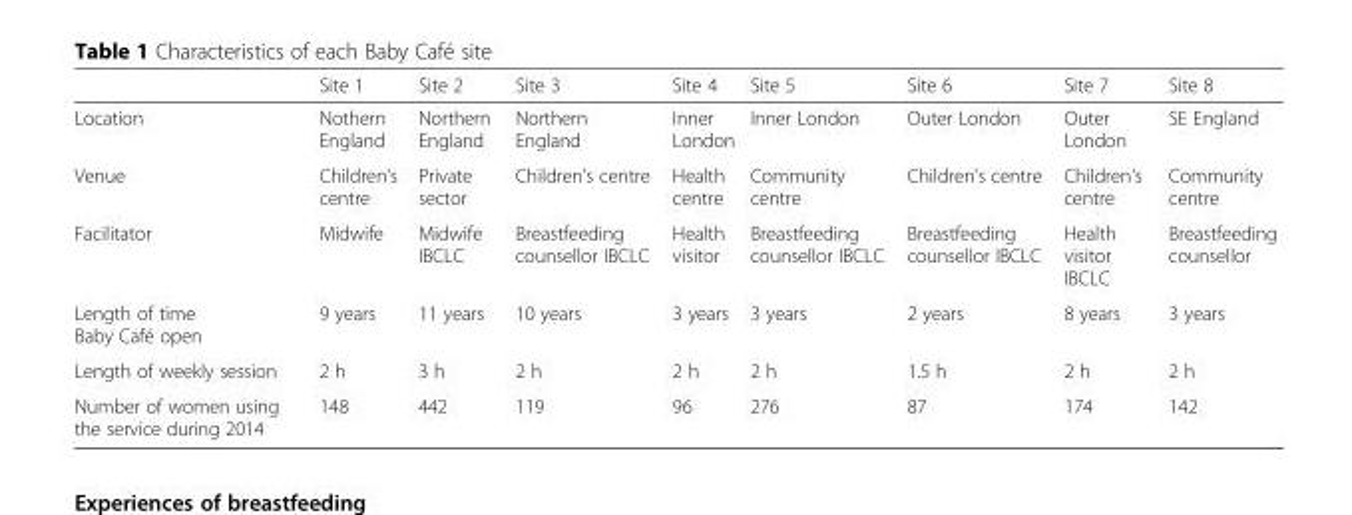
<table><thead><tr><td></td><td>Site 1</td><td>Site 2</td><td>Site 3</td><td>Site 4</td><td>Site 5</td><td>Site 6</td><td>Site 7</td><td>Site 8</td></tr></thead><tbody><tr><td>Location</td><td>Nothern England</td><td>Northern England</td><td>Northern England</td><td>Inner London</td><td>Inner London</td><td>Outer London</td><td>Outer London</td><td>SE England</td></tr><tr><td>Venue</td><td>Children&#x27;s centre</td><td>Private sector</td><td>Children&#x27;s centre</td><td>Health centre</td><td>Community centre</td><td>Children&#x27;s centre</td><td>Children&#x27;s centre</td><td>Community centre</td></tr><tr><td>Facilitator</td><td>Midwife</td><td>Midwife IBCLC</td><td>Breastfeeding counsellor IBCLC</td><td>Health visitor</td><td>Breastfeeding counsellor IBCLC</td><td>Breastfeeding counsellor IBCLC</td><td>Health visitor IBCLC</td><td>Breastfeeding counsellor</td></tr><tr><td>Length of time Baby Café open</td><td>9 years</td><td>11 years</td><td>10 years</td><td>3 years</td><td>3 years</td><td>2 years</td><td>8 years</td><td>3 years</td></tr><tr><td>Length of weekly session</td><td>2 h</td><td>3 h</td><td>2 h</td><td>2 h</td><td>2 h</td><td>1.5 h</td><td>2 h</td><td>2 h</td></tr><tr><td>Number of women using the service during 2014</td><td>148</td><td>442</td><td>119</td><td>96</td><td>276</td><td>87</td><td>174</td><td>142</td></tr></tbody></table>